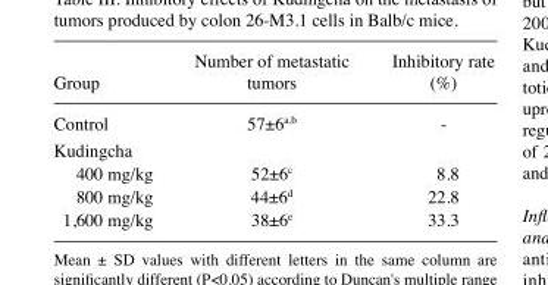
<table><thead><tr><td>Group</td><td>Number of metastatic tumors</td><td>Inhibitory rate (%)</td></tr></thead><tbody><tr><td>Control</td><td>57±6<sup>a,b</sup></td><td>-</td></tr><tr><td colspan="3">Kudingcha</td></tr><tr><td>400 mg/kg</td><td>52±6<sup>c</sup></td><td>8.8</td></tr><tr><td>800 mg/kg</td><td>44±6<sup>d</sup></td><td>22.8</td></tr><tr><td>1,600 mg/kg</td><td>38±6<sup>e</sup></td><td>33.3</td></tr></tbody></table>